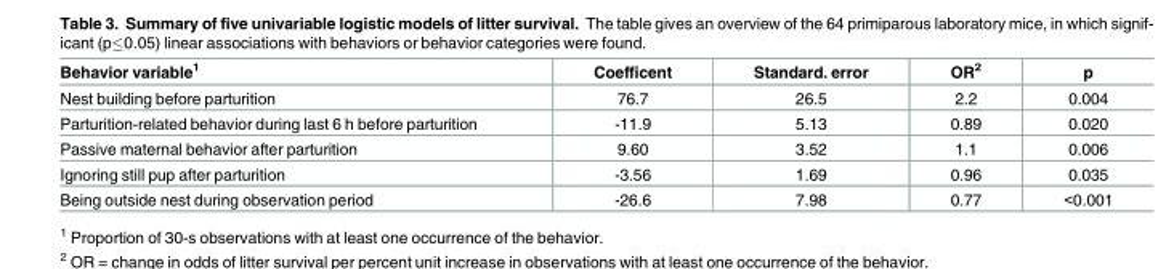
<table><thead><tr><td>Behavior variable<sup>1</sup></td><td>Coefficent</td><td>Standard. error</td><td>OR<sup>2</sup></td><td>p</td></tr></thead><tbody><tr><td>Nest building before parturition</td><td>76.7</td><td>26.5</td><td>2.2</td><td>0.004</td></tr><tr><td>Parturition-related behavior during last 6 h before parturition</td><td>-11.9</td><td>5.13</td><td>0.89</td><td>0.020</td></tr><tr><td>Passive maternal behavior after parturition</td><td>9.60</td><td>3.52</td><td>1.1</td><td>0.006</td></tr><tr><td>Ignoring still pup after parturition</td><td>-3.56</td><td>1.69</td><td>0.96</td><td>0.035</td></tr><tr><td>Being outside nest during observation period</td><td>-26.6</td><td>7.98</td><td>0.77</td><td>&lt;0.001</td></tr></tbody></table>